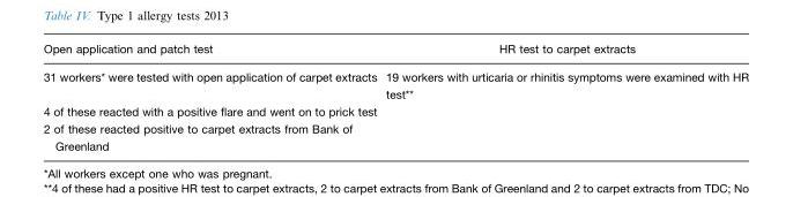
<table><thead><tr><td>Open application and patch test</td><td>HR test to carpet extracts</td></tr></thead><tbody><tr><td>31 workers* were tested with open application of carpet extracts</td><td>19 workers with urticaria or rhinitis symptoms were examined with HR test**</td></tr><tr><td colspan="2">4 of these reacted with a positive flare and went on to prick test</td></tr><tr><td>2 of these reacted positive to carpet extracts from Bank of Greenland</td><td></td></tr></tbody></table>